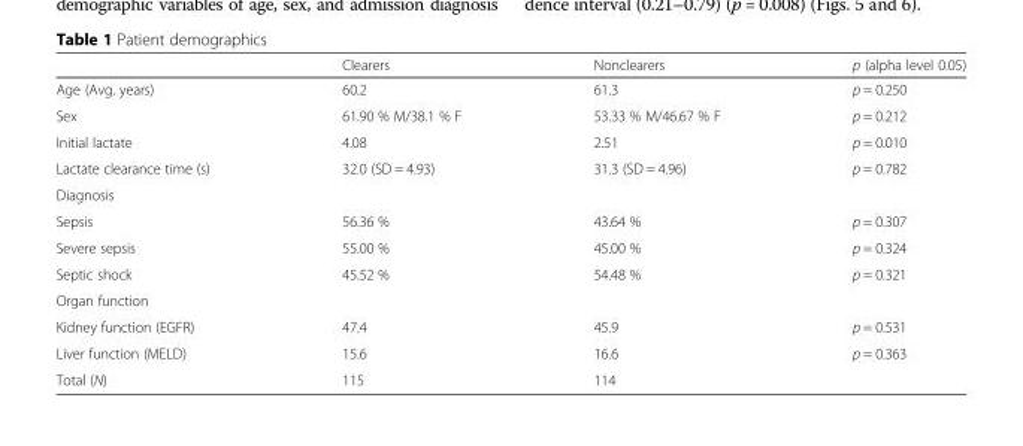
<table><thead><tr><td></td><td>Clearers</td><td>Nonclearers</td><td>p (alpha level 0.05)</td></tr></thead><tbody><tr><td>Age (Avg. years)</td><td>60.2</td><td>61.3</td><td>p = 0.250</td></tr><tr><td>Sex</td><td>61.90 % M/38.1 % F</td><td>53.33 % M/46.67 % F</td><td>p = 0.212</td></tr><tr><td>Initial lactate</td><td>4.08</td><td>2.51</td><td>p = 0.010</td></tr><tr><td>Lactate clearance time (s)</td><td>32.0 (SD = 4.93)</td><td>31.3 (SD = 4.96)</td><td>p = 0.782</td></tr><tr><td colspan="4">Diagnosis</td></tr><tr><td>Sepsis</td><td>56.36 %</td><td>43.64 %</td><td>p = 0.307</td></tr><tr><td>Severe sepsis</td><td>55.00 %</td><td>45.00 %</td><td>p = 0.324</td></tr><tr><td>Septic shock</td><td>45.52 %</td><td>54.48 %</td><td>p = 0.321</td></tr><tr><td colspan="4">Organ function</td></tr><tr><td>Kidney function (EGFR)</td><td>47.4</td><td>45.9</td><td>p = 0.531</td></tr><tr><td>Liver function (MELD)</td><td>15.6</td><td>16.6</td><td>p = 0.363</td></tr><tr><td>Total (N)</td><td>115</td><td>114</td><td></td></tr></tbody></table>